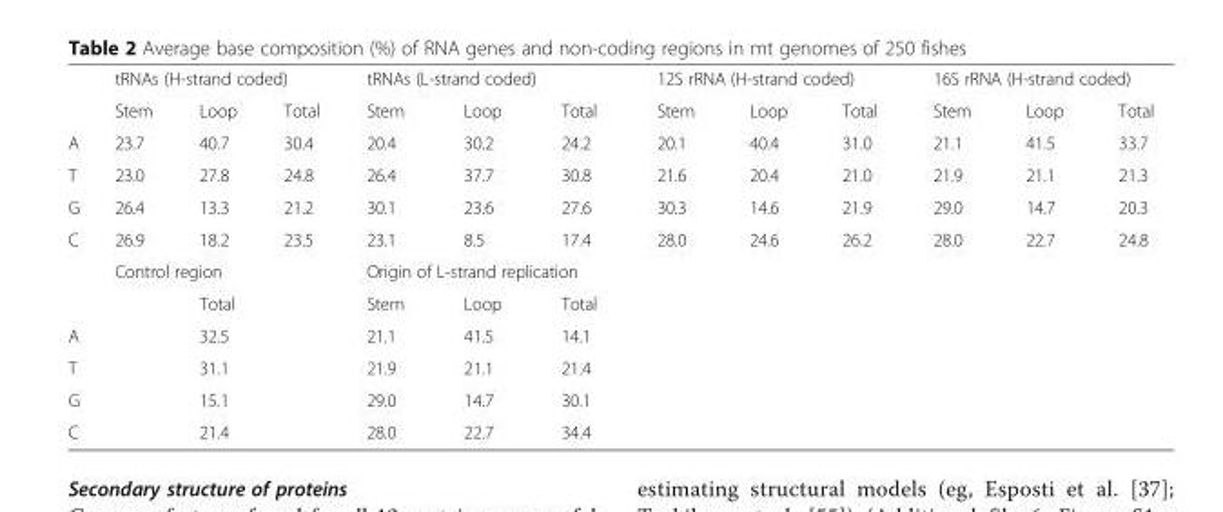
<table><thead><tr><td rowspan="2"></td><td colspan="3">tRNAs (H-strand coded)</td><td colspan="3">tRNAs (L-strand coded)</td><td colspan="3">12S rRNA (H-strand coded)</td><td colspan="3">16S rRNA (H-strand coded)</td></tr><tr><td>Stem</td><td>Loop</td><td>Total</td><td>Stem</td><td>Loop</td><td>Total</td><td>Stem</td><td>Loop</td><td>Total</td><td>Stem</td><td>Loop</td><td>Total</td></tr></thead><tbody><tr><td>A</td><td>23.7</td><td>40.7</td><td>30.4</td><td>20.4</td><td>30.2</td><td>24.2</td><td>20.1</td><td>40.4</td><td>31.0</td><td>21.1</td><td>41.5</td><td>33.7</td></tr><tr><td>T</td><td>23.0</td><td>27.8</td><td>24.8</td><td>26.4</td><td>37.7</td><td>30.8</td><td>21.6</td><td>20.4</td><td>21.0</td><td>21.9</td><td>21.1</td><td>21.3</td></tr><tr><td>G</td><td>26.4</td><td>13.3</td><td>21.2</td><td>30.1</td><td>23.6</td><td>27.6</td><td>30.3</td><td>14.6</td><td>21.9</td><td>29.0</td><td>14.7</td><td>20.3</td></tr><tr><td rowspan="3">C</td><td>26.9</td><td>18.2</td><td>23.5</td><td>23.1</td><td>8.5</td><td>17.4</td><td>28.0</td><td>24.6</td><td>26.2</td><td>28.0</td><td>22.7</td><td>24.8</td></tr><tr><td colspan="3">Control region</td><td colspan="3">Origin of L-strand replication</td><td></td><td></td><td></td><td></td><td></td><td></td></tr><tr><td></td><td>Total</td><td></td><td>Stem</td><td>Loop</td><td>Total</td><td></td><td></td><td></td><td></td><td></td><td></td></tr><tr><td>A</td><td></td><td>32.5</td><td></td><td>21.1</td><td>41.5</td><td>14.1</td><td></td><td></td><td></td><td></td><td></td><td></td></tr><tr><td>T</td><td></td><td>31.1</td><td></td><td>21.9</td><td>21.1</td><td>21.4</td><td></td><td></td><td></td><td></td><td></td><td></td></tr><tr><td>G</td><td></td><td>15.1</td><td></td><td>29.0</td><td>14.7</td><td>30.1</td><td></td><td></td><td></td><td></td><td></td><td></td></tr><tr><td>C</td><td></td><td>21.4</td><td></td><td>28.0</td><td>22.7</td><td>34.4</td><td></td><td></td><td></td><td></td><td></td><td></td></tr></tbody></table>